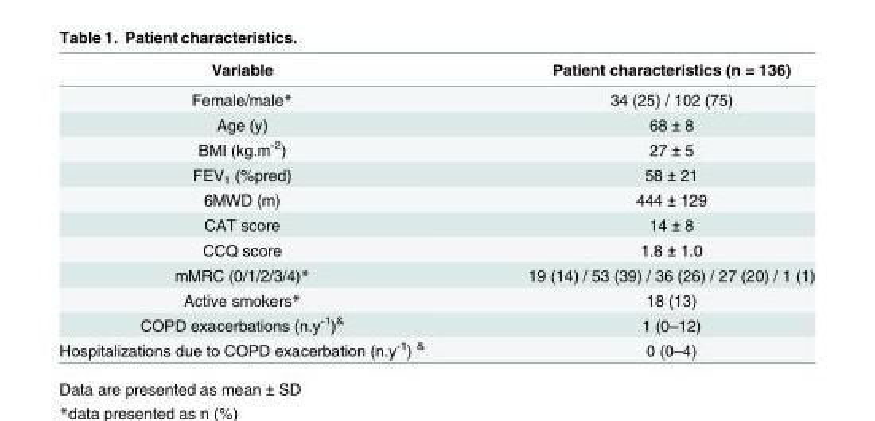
<table><thead><tr><td>Variable</td><td>Patient characteristics (n = 136)</td></tr></thead><tbody><tr><td>Female/male*</td><td>34 (25) / 102 (75)</td></tr><tr><td>Age (y)</td><td>68 ± 8</td></tr><tr><td>BMI (kg.m<sup>-2</sup>)</td><td>27 ± 5</td></tr><tr><td>FEV<sub>1</sub> (%pred)</td><td>58 ± 21</td></tr><tr><td>6MWD (m)</td><td>444 ± 129</td></tr><tr><td>CAT score</td><td>14 ± 8</td></tr><tr><td>CCQ score</td><td>1.8 ± 1.0</td></tr><tr><td>mMRC (0/1/2/3/4)*</td><td>19 (14) / 53 (39) / 36 (26) / 27 (20) / 1 (1)</td></tr><tr><td>Active smokers*</td><td>18 (13)</td></tr><tr><td>COPD exacerbations (n.y<sup>-1</sup>)<sup>&amp;</sup></td><td>1 (0–12)</td></tr><tr><td>Hospitalizations due to COPD exacerbation (n.y<sup>-1</sup>) <sup>&amp;</sup></td><td>0 (0–4)</td></tr></tbody></table>